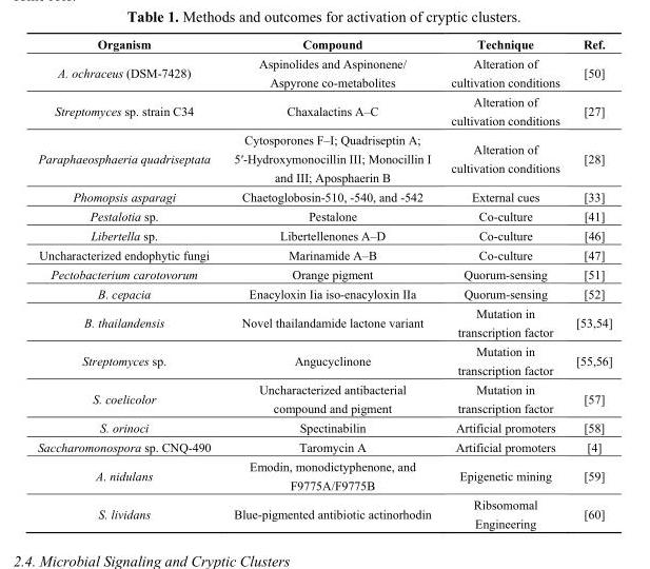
<table><thead><tr><td>Organism</td><td>Compound</td><td>Technique</td><td>Ref.</td></tr></thead><tbody><tr><td>A. ochraceus (DSM-7428)</td><td>Aspinolides and Aspinonene/ Aspyrone co-metabolites</td><td>Alteration of cultivation conditions</td><td>[50]</td></tr><tr><td>Streptomyces sp. strain C34</td><td>Chaxalactins A–C</td><td>Alteration of cultivation conditions</td><td>[27]</td></tr><tr><td>Paraphaeosphaeria quadriseptata</td><td>Cytosporones F–I; Quadriseptin A; 5′-Hydroxymonocillin III; Monocillin I and III; Aposphaerin B</td><td>Alteration of cultivation conditions</td><td>[28]</td></tr><tr><td>Phomopsis asparagi</td><td>Chaetoglobosin-510, -540, and -542</td><td>External cues</td><td>[33]</td></tr><tr><td>Pestalotia sp.</td><td>Pestalone</td><td>Co-culture</td><td>[41]</td></tr><tr><td>Libertella sp.</td><td>Libertellenones A–D</td><td>Co-culture</td><td>[46]</td></tr><tr><td>Uncharacterized endophytic fungi</td><td>Marinamide A–B</td><td>Co-culture</td><td>[47]</td></tr><tr><td>Pectobacterium carotovorum</td><td>Orange pigment</td><td>Quorum-sensing</td><td>[51]</td></tr><tr><td>B. cepacia</td><td>Enacyloxin Iia iso-enacyloxin IIa</td><td>Quorum-sensing</td><td>[52]</td></tr><tr><td>B. thailandensis</td><td>Novel thailandamide lactone variant</td><td>Mutation in transcription factor</td><td>[53,54]</td></tr><tr><td>Streptomyces sp.</td><td>Angucyclinone</td><td>Mutation in transcription factor</td><td>[55,56]</td></tr><tr><td>S. coelicolor</td><td>Uncharacterized antibacterial compound and pigment</td><td>Mutation in transcription factor</td><td>[57]</td></tr><tr><td>S. orinoci</td><td>Spectinabilin</td><td>Artificial promoters</td><td>[58]</td></tr><tr><td>Saccharomonospora sp. CNQ-490</td><td>Taromycin A</td><td>Artificial promoters</td><td>[4]</td></tr><tr><td>A. nidulans</td><td>Emodin, monodictyphenone, and F9775A/F9775B</td><td>Epigenetic mining</td><td>[59]</td></tr><tr><td>S. lividans</td><td>Blue-pigmented antibiotic actinorhodin</td><td>Ribsomomal Engineering</td><td>[60]</td></tr></tbody></table>